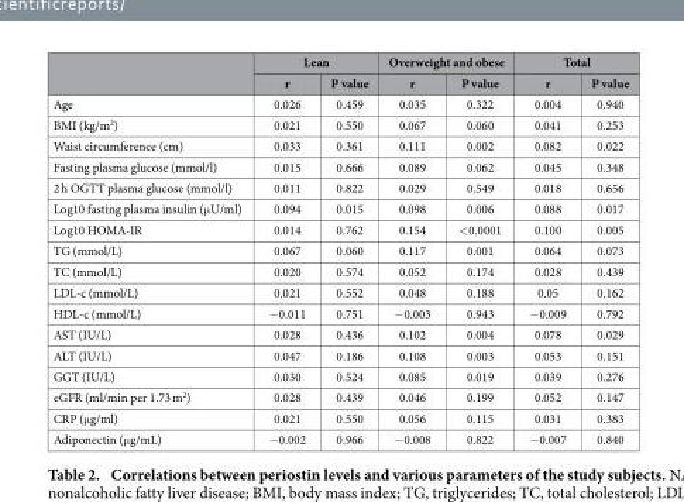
<table><thead><tr><td rowspan="2"></td><td colspan="2">Lean</td><td colspan="2">Overweight and obese</td><td colspan="2">Total</td></tr><tr><td>r</td><td>P value</td><td>r</td><td>P value</td><td>r</td><td>P value</td></tr></thead><tbody><tr><td>Age</td><td>0.026</td><td>0.459</td><td>0.035</td><td>0.322</td><td>0.004</td><td>0.940</td></tr><tr><td>BMI (kg/m<sup>2</sup>)</td><td>0.021</td><td>0.550</td><td>0.067</td><td>0.060</td><td>0.041</td><td>0.253</td></tr><tr><td>Waist circumference (cm)</td><td>0.033</td><td>0.361</td><td>0.111</td><td>0.002</td><td>0.082</td><td>0.022</td></tr><tr><td>Fasting plasma glucose (mmol/l)</td><td>0.015</td><td>0.666</td><td>0.089</td><td>0.062</td><td>0.045</td><td>0.348</td></tr><tr><td>2 h OGTT plasma glucose (mmol/l)</td><td>0.011</td><td>0.822</td><td>0.029</td><td>0.549</td><td>0.018</td><td>0.656</td></tr><tr><td>Log10 fasting plasma insulin (μ U/ml)</td><td>0.094</td><td>0.015</td><td>0.098</td><td>0.006</td><td>0.088</td><td>0.017</td></tr><tr><td>Log10 HOMA-IR</td><td>0.014</td><td>0.762</td><td>0.154</td><td>&lt; 0.0001</td><td>0.100</td><td>0.005</td></tr><tr><td>TG (mmol/L)</td><td>0.067</td><td>0.060</td><td>0.117</td><td>0.001</td><td>0.064</td><td>0.073</td></tr><tr><td>TC (mmol/L)</td><td>0.020</td><td>0.574</td><td>0.052</td><td>0.174</td><td>0.028</td><td>0.439</td></tr><tr><td>LDL-c (mmol/L)</td><td>0.021</td><td>0.552</td><td>0.048</td><td>0.188</td><td>0.05</td><td>0.162</td></tr><tr><td>HDL-c (mmol/L)</td><td>− 0.011</td><td>0.751</td><td>− 0.003</td><td>0.943</td><td>− 0.009</td><td>0.792</td></tr><tr><td>AST (IU/L)</td><td>0.028</td><td>0.436</td><td>0.102</td><td>0.004</td><td>0.078</td><td>0.029</td></tr><tr><td>ALT (IU/L)</td><td>0.047</td><td>0.186</td><td>0.108</td><td>0.003</td><td>0.053</td><td>0.151</td></tr><tr><td>GGT (IU/L)</td><td>0.030</td><td>0.524</td><td>0.085</td><td>0.019</td><td>0.039</td><td>0.276</td></tr><tr><td>eGFR (ml/min per 1.73 m<sup>2</sup>)</td><td>0.028</td><td>0.439</td><td>0.046</td><td>0.199</td><td>0.052</td><td>0.147</td></tr><tr><td>CRP (μ g/ml)</td><td>0.021</td><td>0.550</td><td>0.056</td><td>0.115</td><td>0.031</td><td>0.383</td></tr><tr><td>Adiponectin (μ g/mL)</td><td>− 0.002</td><td>0.966</td><td>− 0.008</td><td>0.822</td><td>− 0.007</td><td>0.840</td></tr></tbody></table>